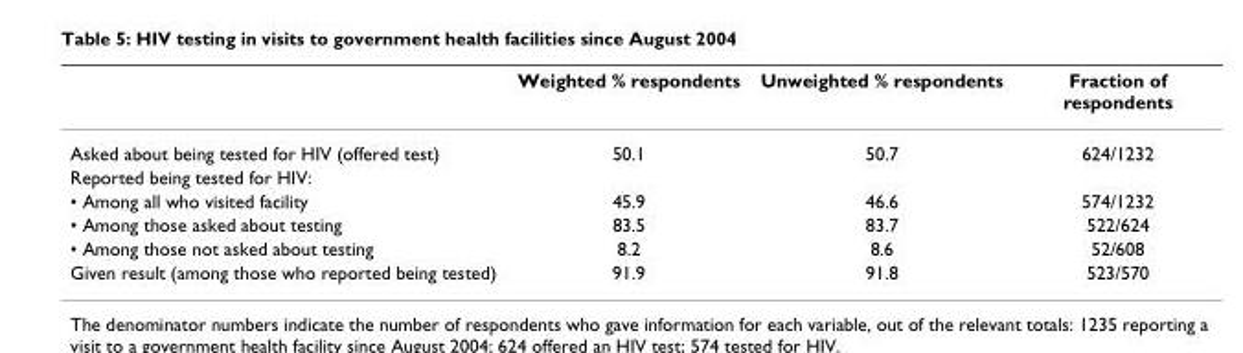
<table><thead><tr><td></td><td>Weighted % respondents</td><td>Unweighted % respondents</td><td>Fraction of respondents</td></tr></thead><tbody><tr><td>Asked about being tested for HIV (offered test)</td><td>50.1</td><td>50.7</td><td>624/1232</td></tr><tr><td colspan="4">Reported being tested for HIV:</td></tr><tr><td>• Among all who visited facility</td><td>45.9</td><td>46.6</td><td>574/1232</td></tr><tr><td>• Among those asked about testing</td><td>83.5</td><td>83.7</td><td>522/624</td></tr><tr><td>• Among those not asked about testing</td><td>8.2</td><td>8.6</td><td>52/608</td></tr><tr><td>Given result (among those who reported being tested)</td><td>91.9</td><td>91.8</td><td>523/570</td></tr></tbody></table>